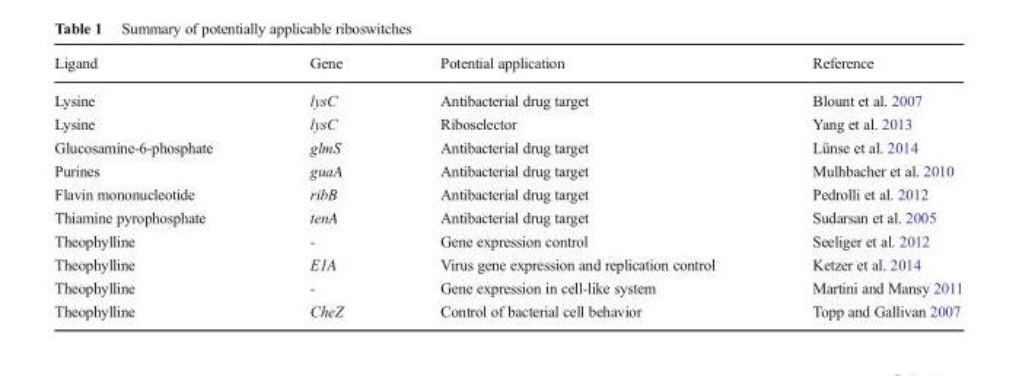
<table><thead><tr><td>Ligand</td><td>Gene</td><td>Potential application</td><td>Reference</td></tr></thead><tbody><tr><td>Lysine</td><td>lysC</td><td>Antibacterial drug target</td><td>Blount et al. 2007</td></tr><tr><td>Lysine</td><td>lysC</td><td>Riboselector</td><td>Yang et al. 2013</td></tr><tr><td>Glucosamine-6-phosphate</td><td>glmS</td><td>Antibacterial drug target</td><td>Lünse et al. 2014</td></tr><tr><td>Purines</td><td>guaA</td><td>Antibacterial drug target</td><td>Mulhbacher et al. 2010</td></tr><tr><td>Flavin mononucleotide</td><td>ribB</td><td>Antibacterial drug target</td><td>Pedrolli et al. 2012</td></tr><tr><td>Thiamine pyrophosphate</td><td>tenA</td><td>Antibacterial drug target</td><td>Sudarsan et al. 2005</td></tr><tr><td>Theophylline</td><td>-</td><td>Gene expression control</td><td>Seeliger et al. 2012</td></tr><tr><td>Theophylline</td><td>E1A</td><td>Virus gene expression and replication control</td><td>Ketzer et al. 2014</td></tr><tr><td>Theophylline</td><td>-</td><td>Gene expression in cell-like system</td><td>Martini and Mansy 2011</td></tr><tr><td>Theophylline</td><td>CheZ</td><td>Control of bacterial cell behavior</td><td>Topp and Gallivan 2007</td></tr></tbody></table>